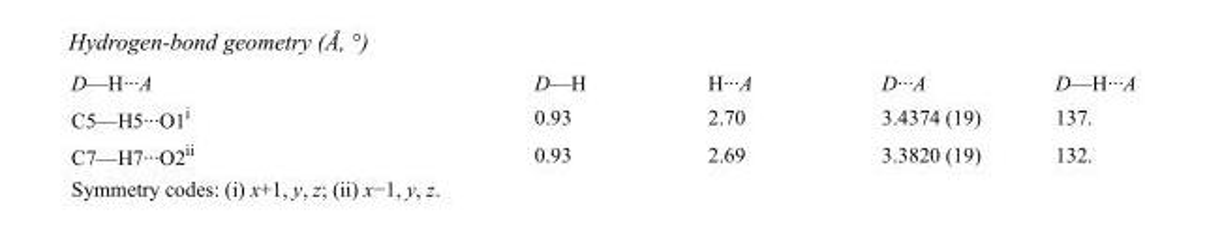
<table><tbody><tr><td>D—H···A</td><td>D—H</td><td>H···A</td><td>D···A</td><td>D—H···A</td></tr><tr><td>C5—H5···O1<sup>i</sup></td><td>0.93</td><td>2.70</td><td>3.4374 (19)</td><td>137.</td></tr><tr><td>C7—H7···O2<sup>ii</sup></td><td>0.93</td><td>2.69</td><td>3.3820 (19)</td><td>132.</td></tr></tbody></table>